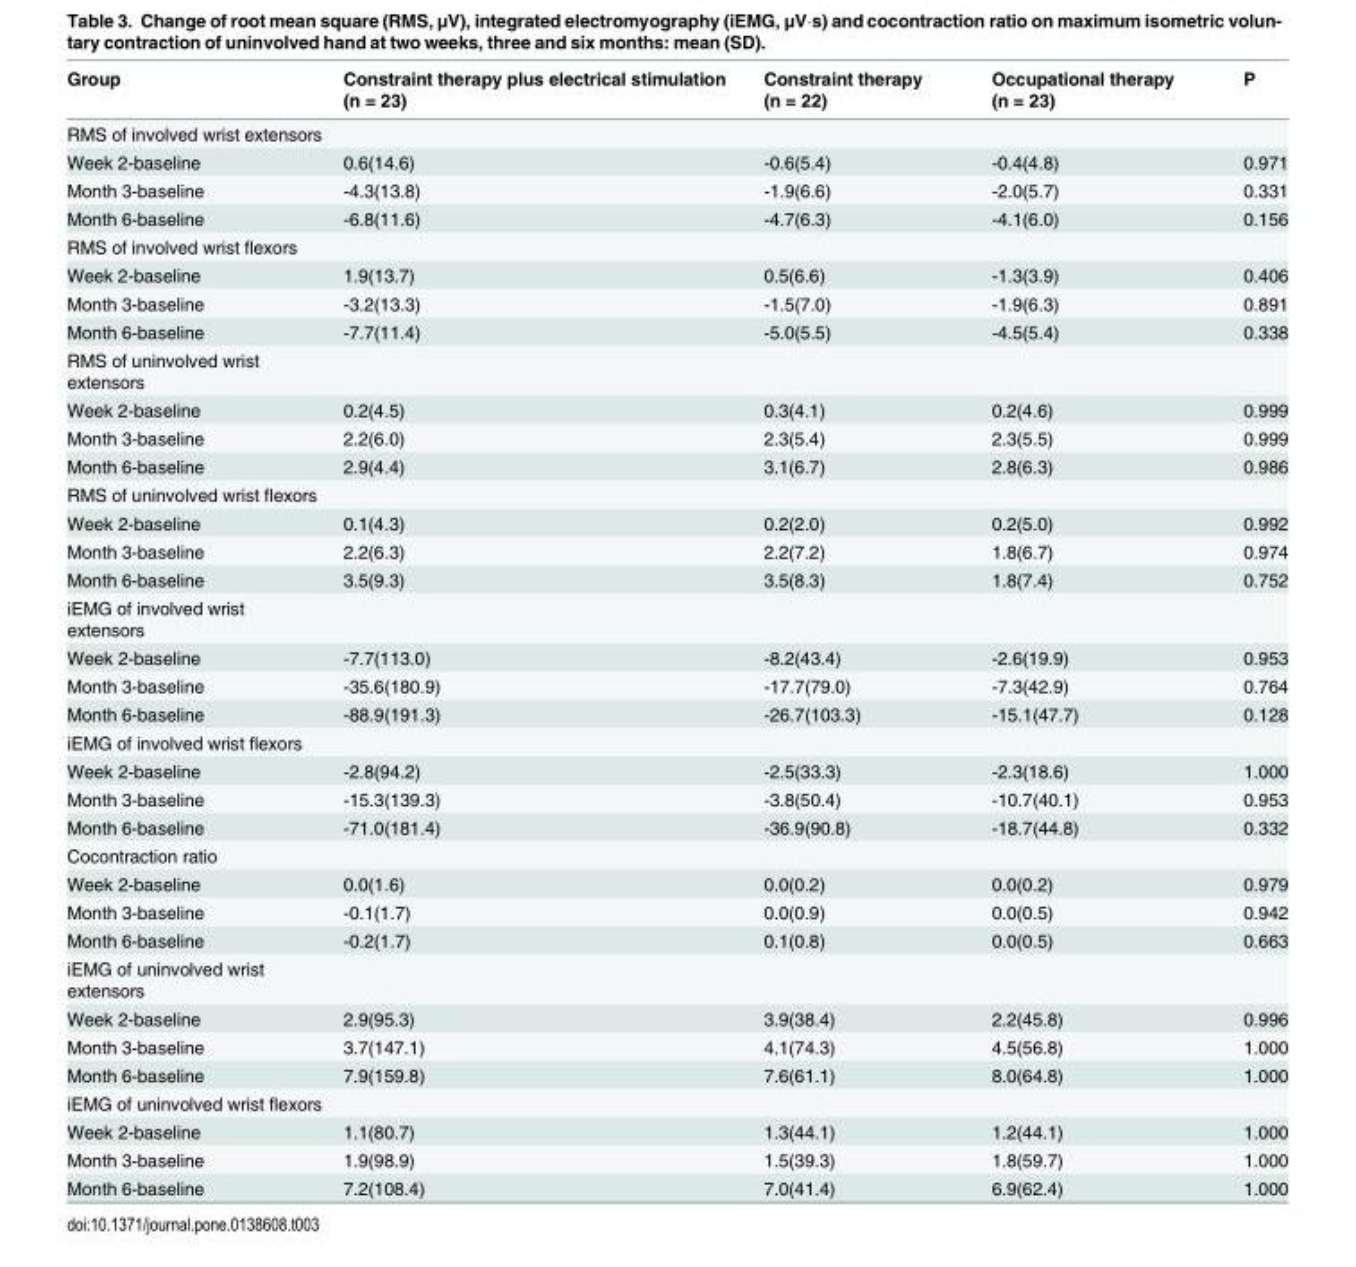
<table><thead><tr><td>Group</td><td>Constraint therapy plus electrical stimulation (n = 23)</td><td>Constraint therapy (n = 22)</td><td>Occupational therapy (n = 23)</td><td>P</td></tr></thead><tbody><tr><td colspan="5">RMS of involved wrist extensors</td></tr><tr><td>Week 2-baseline</td><td>0.6(14.6)</td><td>-0.6(5.4)</td><td>-0.4(4.8)</td><td>0.971</td></tr><tr><td>Month 3-baseline</td><td>-4.3(13.8)</td><td>-1.9(6.6)</td><td>-2.0(5.7)</td><td>0.331</td></tr><tr><td>Month 6-baseline</td><td>-6.8(11.6)</td><td>-4.7(6.3)</td><td>-4.1(6.0)</td><td>0.156</td></tr><tr><td colspan="5">RMS of involved wrist flexors</td></tr><tr><td>Week 2-baseline</td><td>1.9(13.7)</td><td>0.5(6.6)</td><td>-1.3(3.9)</td><td>0.406</td></tr><tr><td>Month 3-baseline</td><td>-3.2(13.3)</td><td>-1.5(7.0)</td><td>-1.9(6.3)</td><td>0.891</td></tr><tr><td>Month 6-baseline</td><td>-7.7(11.4)</td><td>-5.0(5.5)</td><td>-4.5(5.4)</td><td>0.338</td></tr><tr><td colspan="5">RMS of uninvolved wrist extensors</td></tr><tr><td>Week 2-baseline</td><td>0.2(4.5)</td><td>0.3(4.1)</td><td>0.2(4.6)</td><td>0.999</td></tr><tr><td>Month 3-baseline</td><td>2.2(6.0)</td><td>2.3(5.4)</td><td>2.3(5.5)</td><td>0.999</td></tr><tr><td>Month 6-baseline</td><td>2.9(4.4)</td><td>3.1(6.7)</td><td>2.8(6.3)</td><td>0.986</td></tr><tr><td colspan="5">RMS of uninvolved wrist flexors</td></tr><tr><td>Week 2-baseline</td><td>0.1(4.3)</td><td>0.2(2.0)</td><td>0.2(5.0)</td><td>0.992</td></tr><tr><td>Month 3-baseline</td><td>2.2(6.3)</td><td>2.2(7.2)</td><td>1.8(6.7)</td><td>0.974</td></tr><tr><td>Month 6-baseline</td><td>3.5(9.3)</td><td>3.5(8.3)</td><td>1.8(7.4)</td><td>0.752</td></tr><tr><td colspan="5">iEMG of involved wrist extensors</td></tr><tr><td>Week 2-baseline</td><td>-7.7(113.0)</td><td>-8.2(43.4)</td><td>-2.6(19.9)</td><td>0.953</td></tr><tr><td>Month 3-baseline</td><td>-35.6(180.9)</td><td>-17.7(79.0)</td><td>-7.3(42.9)</td><td>0.764</td></tr><tr><td>Month 6-baseline</td><td>-88.9(191.3)</td><td>-26.7(103.3)</td><td>-15.1(47.7)</td><td>0.128</td></tr><tr><td colspan="5">iEMG of involved wrist flexors</td></tr><tr><td>Week 2-baseline</td><td>-2.8(94.2)</td><td>-2.5(33.3)</td><td>-2.3(18.6)</td><td>1.000</td></tr><tr><td>Month 3-baseline</td><td>-15.3(139.3)</td><td>-3.8(50.4)</td><td>-10.7(40.1)</td><td>0.953</td></tr><tr><td>Month 6-baseline</td><td>-71.0(181.4)</td><td>-36.9(90.8)</td><td>-18.7(44.8)</td><td>0.332</td></tr><tr><td colspan="5">Cocontraction ratio</td></tr><tr><td>Week 2-baseline</td><td>0.0(1.6)</td><td>0.0(0.2)</td><td>0.0(0.2)</td><td>0.979</td></tr><tr><td>Month 3-baseline</td><td>-0.1(1.7)</td><td>0.0(0.9)</td><td>0.0(0.5)</td><td>0.942</td></tr><tr><td>Month 6-baseline</td><td>-0.2(1.7)</td><td>0.1(0.8)</td><td>0.0(0.5)</td><td>0.663</td></tr><tr><td colspan="5">iEMG of uninvolved wrist extensors</td></tr><tr><td>Week 2-baseline</td><td>2.9(95.3)</td><td>3.9(38.4)</td><td>2.2(45.8)</td><td>0.996</td></tr><tr><td>Month 3-baseline</td><td>3.7(147.1)</td><td>4.1(74.3)</td><td>4.5(56.8)</td><td>1.000</td></tr><tr><td>Month 6-baseline</td><td>7.9(159.8)</td><td>7.6(61.1)</td><td>8.0(64.8)</td><td>1.000</td></tr><tr><td colspan="5">iEMG of uninvolved wrist flexors</td></tr><tr><td>Week 2-baseline</td><td>1.1(80.7)</td><td>1.3(44.1)</td><td>1.2(44.1)</td><td>1.000</td></tr><tr><td>Month 3-baseline</td><td>1.9(98.9)</td><td>1.5(39.3)</td><td>1.8(59.7)</td><td>1.000</td></tr><tr><td>Month 6-baseline</td><td>7.2(108.4)</td><td>7.0(41.4)</td><td>6.9(62.4)</td><td>1.000</td></tr></tbody></table>